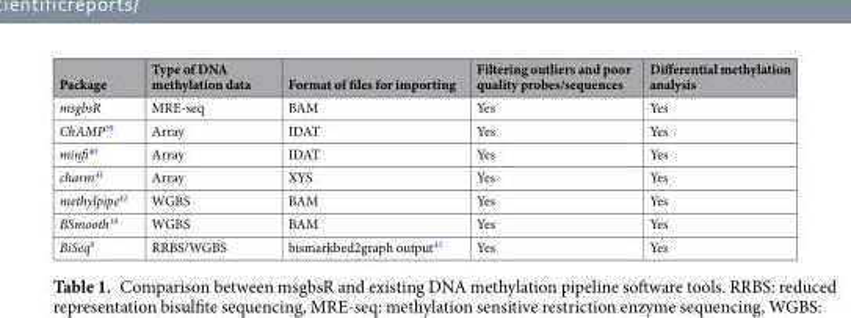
<table><thead><tr><td>Package</td><td>Type of DNA methylation data</td><td>Format of files for importing</td><td>Filtering outliers and poor quality probes/sequences</td><td>Differential methylation analysis</td></tr></thead><tbody><tr><td>msgbsR</td><td>MRE-seq</td><td>BAM</td><td>Yes</td><td>Yes</td></tr><tr><td>ChAMP<sup>39</sup></td><td>Array</td><td>IDAT</td><td>Yes</td><td>Yes</td></tr><tr><td>minfi<sup>40</sup></td><td>Array</td><td>IDAT</td><td>Yes</td><td>Yes</td></tr><tr><td>charm<sup>41</sup></td><td>Array</td><td>XYS</td><td>Yes</td><td>Yes</td></tr><tr><td>methylpipe<sup>42</sup></td><td>WGBS</td><td>BAM</td><td>Yes</td><td>Yes</td></tr><tr><td>BSmooth<sup>10</sup></td><td>WGBS</td><td>BAM</td><td>Yes</td><td>Yes</td></tr><tr><td>BiSeq<sup>9</sup></td><td>RRBS/WGBS</td><td>bismarkbed2graph output<sup>43</sup></td><td>Yes</td><td>Yes</td></tr></tbody></table>